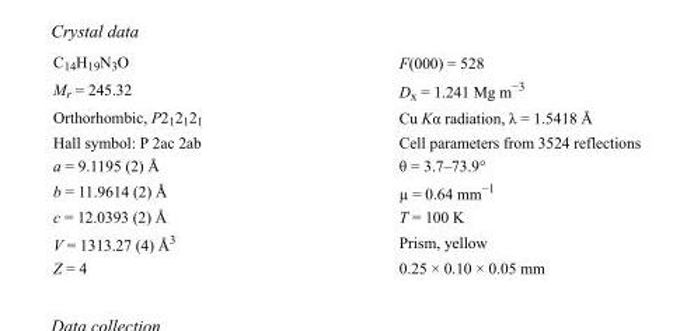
<table><tbody><tr><td>C<sub>14</sub>H<sub>19</sub>N<sub>3</sub>O</td><td>F(000) = 528</td></tr><tr><td>M<sub>r</sub> = 245.32</td><td>D<sub>x</sub> = 1.241 Mg m<sup>−3</sup></td></tr><tr><td>Orthorhombic, P2<sub>1</sub>2<sub>1</sub>2<sub>1</sub></td><td>Cu Kα radiation, λ = 1.5418 Å</td></tr><tr><td>Hall symbol: P 2ac 2ab</td><td>Cell parameters from 3524 reflections</td></tr><tr><td>a = 9.1195 (2) Å</td><td>θ = 3.7–73.9°</td></tr><tr><td>b = 11.9614 (2) Å</td><td>µ = 0.64 mm<sup>−1</sup></td></tr><tr><td>c = 12.0393 (2) Å</td><td>T = 100 K</td></tr><tr><td>V = 1313.27 (4) Å<sup>3</sup></td><td>Prism, yellow</td></tr><tr><td>Z = 4</td><td>0.25 × 0.10 × 0.05 mm</td></tr></tbody></table>